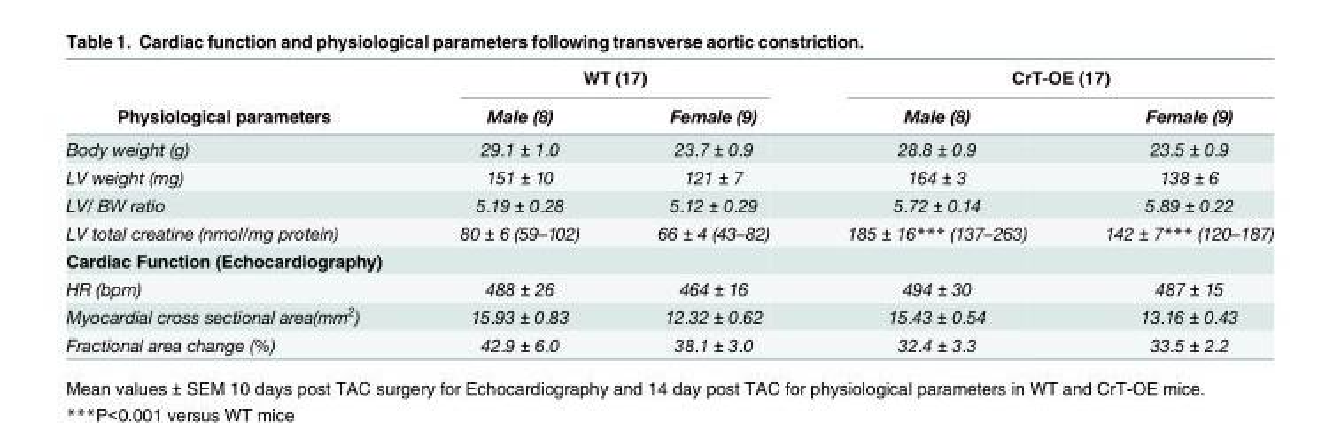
<table><thead><tr><td rowspan="2">Physiological parameters</td><td colspan="2">WT (17)</td><td colspan="2">CrT-OE (17)</td></tr><tr><td>Male (8)</td><td>Female (9)</td><td>Male (8)</td><td>Female (9)</td></tr></thead><tbody><tr><td>Body weight (g)</td><td>29.1 ± 1.0</td><td>23.7 ± 0.9</td><td>28.8 ± 0.9</td><td>23.5 ± 0.9</td></tr><tr><td>LV weight (mg)</td><td>151 ± 10</td><td>121 ± 7</td><td>164 ± 3</td><td>138 ± 6</td></tr><tr><td>LV/ BW ratio</td><td>5.19 ± 0.28</td><td>5.12 ± 0.29</td><td>5.72 ± 0.14</td><td>5.89 ± 0.22</td></tr><tr><td>LV total creatine (nmol/mg protein)</td><td>80 ± 6 (59–102)</td><td>66 ± 4 (43–82)</td><td>185 ± 16*** (137–263)</td><td>142 ± 7*** (120–187)</td></tr><tr><td colspan="5">Cardiac Function (Echocardiography)</td></tr><tr><td>HR (bpm)</td><td>488 ± 26</td><td>464 ± 16</td><td>494 ± 30</td><td>487 ± 15</td></tr><tr><td>Myocardial cross sectional area(mm<sup>2</sup>)</td><td>15.93 ± 0.83</td><td>12.32 ± 0.62</td><td>15.43 ± 0.54</td><td>13.16 ± 0.43</td></tr><tr><td>Fractional area change (%)</td><td>42.9 ± 6.0</td><td>38.1 ± 3.0</td><td>32.4 ± 3.3</td><td>33.5 ± 2.2</td></tr></tbody></table>